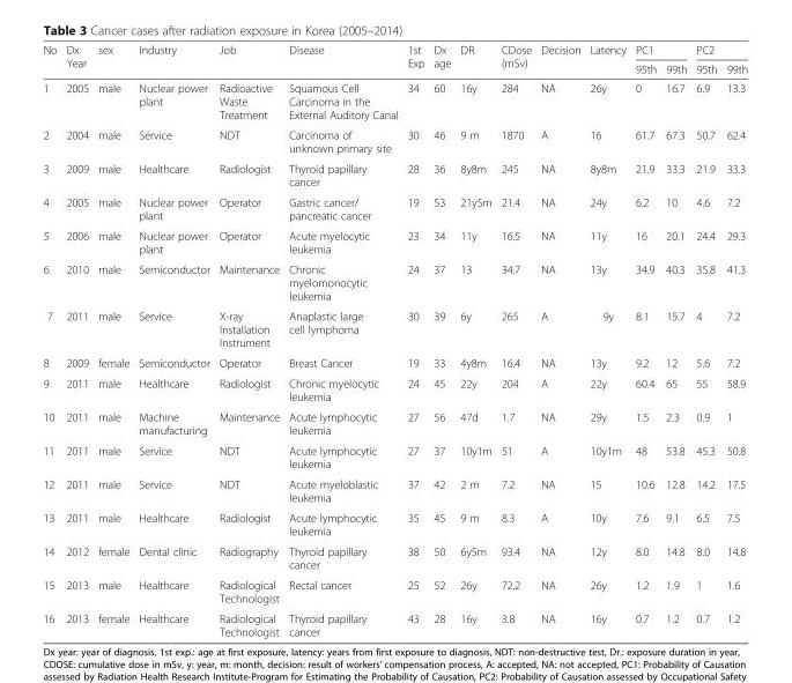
<table><thead><tr><td rowspan="2">No</td><td rowspan="2">Dx Year</td><td rowspan="2">sex</td><td rowspan="2">Industry</td><td rowspan="2">Job</td><td rowspan="2">Disease</td><td rowspan="2">1st Exp</td><td rowspan="2">Dx age</td><td rowspan="2">DR</td><td rowspan="2">CDose (mSv)</td><td rowspan="2">Decision</td><td rowspan="2">Latency</td><td colspan="2">PC1</td><td colspan="2">PC2</td></tr><tr><td>95th</td><td>99th</td><td>95th</td><td>99th</td></tr></thead><tbody><tr><td>1</td><td>2005</td><td>male</td><td>Nuclear power plant</td><td>Radioactive Waste Treatment</td><td>Squamous Cell Carcinoma in the External Auditory Canal</td><td>34</td><td>60</td><td>16y</td><td>284</td><td>NA</td><td>26y</td><td>0</td><td>16.7</td><td>6.9</td><td>13.3</td></tr><tr><td>2</td><td>2004</td><td>male</td><td>Service</td><td>NDT</td><td>Carcinoma of unknown primary site</td><td>30</td><td>46</td><td>9 m</td><td>1870</td><td>A</td><td>16</td><td>61.7</td><td>67.3</td><td>50.7</td><td>62.4</td></tr><tr><td>3</td><td>2009</td><td>male</td><td>Healthcare</td><td>Radiologist</td><td>Thyroid papillary cancer</td><td>28</td><td>36</td><td>8y8m</td><td>245</td><td>NA</td><td>8y8m</td><td>21.9</td><td>33.3</td><td>21.9</td><td>33.3</td></tr><tr><td>4</td><td>2005</td><td>male</td><td>Nuclear power plant</td><td>Operator</td><td>Gastric cancer/ pancreatic cancer</td><td>19</td><td>53</td><td>21y5m</td><td>21.4</td><td>NA</td><td>24y</td><td>6.2</td><td>10</td><td>4.6</td><td>7.2</td></tr><tr><td>5</td><td>2006</td><td>male</td><td>Nuclear power plant</td><td>Operator</td><td>Acute myelocytic leukemia</td><td>23</td><td>34</td><td>11y</td><td>16.5</td><td>NA</td><td>11y</td><td>16</td><td>20.1</td><td>24.4</td><td>29.3</td></tr><tr><td>6</td><td>2010</td><td>male</td><td>Semiconductor</td><td>Maintenance</td><td>Chronic myelomonocytic leukemia</td><td>24</td><td>37</td><td>13</td><td>34.7</td><td>NA</td><td>13y</td><td>34.9</td><td>40.3</td><td>35.8</td><td>41.3</td></tr><tr><td>7</td><td>2011</td><td>male</td><td>Service</td><td>X-ray Installation Instrument</td><td>Anaplastic large cell lymphoma</td><td>30</td><td>39</td><td>6y</td><td>265</td><td>A</td><td>9y</td><td>8.1</td><td>15.7</td><td>4</td><td>7.2</td></tr><tr><td>8</td><td>2009</td><td>female</td><td>Semiconductor</td><td>Operator</td><td>Breast Cancer</td><td>19</td><td>33</td><td>4y8m</td><td>16.4</td><td>NA</td><td>13y</td><td>9.2</td><td>12</td><td>5.6</td><td>7.2</td></tr><tr><td>9</td><td>2011</td><td>male</td><td>Healthcare</td><td>Radiologist</td><td>Chronic myelocytic leukemia</td><td>24</td><td>45</td><td>22y</td><td>204</td><td>A</td><td>22y</td><td>60.4</td><td>65</td><td>55</td><td>58.9</td></tr><tr><td>10</td><td>2011</td><td>male</td><td>Machine manufacturing</td><td>Maintenance</td><td>Acute lymphocytic leukemia</td><td>27</td><td>56</td><td>47d</td><td>1.7</td><td>NA</td><td>29y</td><td>1.5</td><td>2.3</td><td>0.9</td><td>1</td></tr><tr><td>11</td><td>2011</td><td>male</td><td>Service</td><td>NDT</td><td>Acute lymphocytic leukemia</td><td>27</td><td>37</td><td>10y1m</td><td>51</td><td>A</td><td>10y1m</td><td>48</td><td>53.8</td><td>45.3</td><td>50.8</td></tr><tr><td>12</td><td>2011</td><td>male</td><td>Service</td><td>NDT</td><td>Acute myeloblastic leukemia</td><td>37</td><td>42</td><td>2 m</td><td>7.2</td><td>NA</td><td>15</td><td>10.6</td><td>12.8</td><td>14.2</td><td>17.5</td></tr><tr><td>13</td><td>2011</td><td>male</td><td>Healthcare</td><td>Radiologist</td><td>Acute lymphocytic leukemia</td><td>35</td><td>45</td><td>9 m</td><td>8.3</td><td>A</td><td>10y</td><td>7.6</td><td>9.1</td><td>6.5</td><td>7.5</td></tr><tr><td>14</td><td>2012</td><td>female</td><td>Dental clinic</td><td>Radiography</td><td>Thyroid papillary cancer</td><td>38</td><td>50</td><td>6y5m</td><td>93.4</td><td>NA</td><td>12y</td><td>8.0</td><td>14.8</td><td>8.0</td><td>14.8</td></tr><tr><td>15</td><td>2013</td><td>male</td><td>Healthcare</td><td>Radiological Technologist</td><td>Rectal cancer</td><td>25</td><td>52</td><td>26y</td><td>72.2</td><td>NA</td><td>26y</td><td>1.2</td><td>1.9</td><td>1</td><td>1.6</td></tr><tr><td>16</td><td>2013</td><td>female</td><td>Healthcare</td><td>Radiological Technologist</td><td>Thyroid papillary cancer</td><td>43</td><td>28</td><td>16y</td><td>3.8</td><td>NA</td><td>16y</td><td>0.7</td><td>1.2</td><td>0.7</td><td>1.2</td></tr></tbody></table>